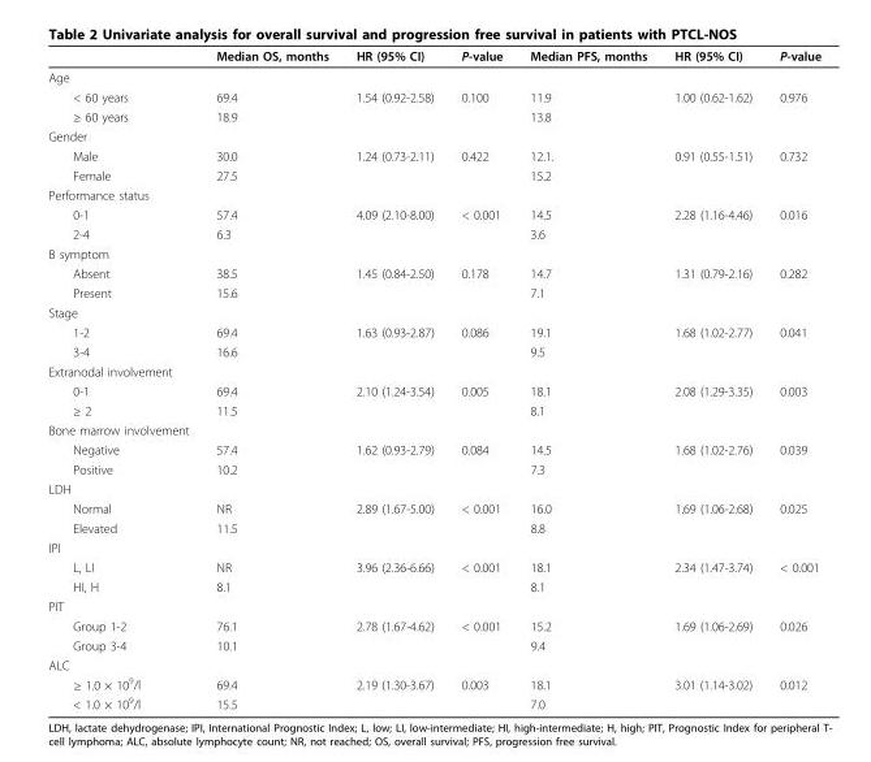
<table><thead><tr><td></td><td>Median OS, months</td><td>HR (95% CI)</td><td>P-value</td><td>Median PFS, months</td><td>HR (95% CI)</td><td>P-value</td></tr></thead><tbody><tr><td colspan="7">Age</td></tr><tr><td>&lt; 60 years</td><td>69.4</td><td>1.54 (0.92-2.58)</td><td>0.100</td><td>11.9</td><td>1.00 (0.62-1.62)</td><td>0.976</td></tr><tr><td>≥ 60 years</td><td>18.9</td><td></td><td></td><td>13.8</td><td></td><td></td></tr><tr><td colspan="7">Gender</td></tr><tr><td>Male</td><td>30.0</td><td>1.24 (0.73-2.11)</td><td>0.422</td><td>12.1.</td><td>0.91 (0.55-1.51)</td><td>0.732</td></tr><tr><td>Female</td><td>27.5</td><td></td><td></td><td>15.2</td><td></td><td></td></tr><tr><td colspan="7">Performance status</td></tr><tr><td>0-1</td><td>57.4</td><td>4.09 (2.10-8.00)</td><td>&lt; 0.001</td><td>14.5</td><td>2.28 (1.16-4.46)</td><td>0.016</td></tr><tr><td>2-4</td><td>6.3</td><td></td><td></td><td>3.6</td><td></td><td></td></tr><tr><td colspan="7">B symptom</td></tr><tr><td>Absent</td><td>38.5</td><td>1.45 (0.84-2.50)</td><td>0.178</td><td>14.7</td><td>1.31 (0.79-2.16)</td><td>0.282</td></tr><tr><td>Present</td><td>15.6</td><td></td><td></td><td>7.1</td><td></td><td></td></tr><tr><td colspan="7">Stage</td></tr><tr><td>1-2</td><td>69.4</td><td>1.63 (0.93-2.87)</td><td>0.086</td><td>19.1</td><td>1.68 (1.02-2.77)</td><td>0.041</td></tr><tr><td>3-4</td><td>16.6</td><td></td><td></td><td>9.5</td><td></td><td></td></tr><tr><td colspan="7">Extranodal involvement</td></tr><tr><td>0-1</td><td>69.4</td><td>2.10 (1.24-3.54)</td><td>0.005</td><td>18.1</td><td>2.08 (1.29-3.35)</td><td>0.003</td></tr><tr><td>≥ 2</td><td>11.5</td><td></td><td></td><td>8.1</td><td></td><td></td></tr><tr><td colspan="7">Bone marrow involvement</td></tr><tr><td>Negative</td><td>57.4</td><td>1.62 (0.93-2.79)</td><td>0.084</td><td>14.5</td><td>1.68 (1.02-2.76)</td><td>0.039</td></tr><tr><td>Positive</td><td>10.2</td><td></td><td></td><td>7.3</td><td></td><td></td></tr><tr><td colspan="7">LDH</td></tr><tr><td>Normal</td><td>NR</td><td>2.89 (1.67-5.00)</td><td>&lt; 0.001</td><td>16.0</td><td>1.69 (1.06-2.68)</td><td>0.025</td></tr><tr><td>Elevated</td><td>11.5</td><td></td><td></td><td>8.8</td><td></td><td></td></tr><tr><td colspan="7">IPI</td></tr><tr><td>L, LI</td><td>NR</td><td>3.96 (2.36-6.66)</td><td>&lt; 0.001</td><td>18.1</td><td>2.34 (1.47-3.74)</td><td>&lt; 0.001</td></tr><tr><td>HI, H</td><td>8.1</td><td></td><td></td><td>8.1</td><td></td><td></td></tr><tr><td colspan="7">PIT</td></tr><tr><td>Group 1-2</td><td>76.1</td><td>2.78 (1.67-4.62)</td><td>&lt; 0.001</td><td>15.2</td><td>1.69 (1.06-2.69)</td><td>0.026</td></tr><tr><td>Group 3-4</td><td>10.1</td><td></td><td></td><td>9.4</td><td></td><td></td></tr><tr><td colspan="7">ALC</td></tr><tr><td>≥ 1.0 × 10<sup>9</sup>/l</td><td>69.4</td><td>2.19 (1.30-3.67)</td><td>0.003</td><td>18.1</td><td>3.01 (1.14-3.02)</td><td>0.012</td></tr><tr><td>&lt; 1.0 × 10<sup>9</sup>/l</td><td>15.5</td><td></td><td></td><td>7.0</td><td></td><td></td></tr></tbody></table>